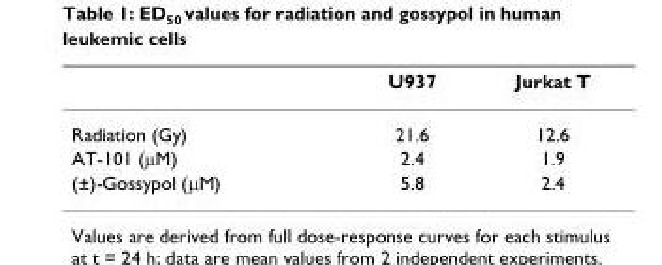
<table><thead><tr><td></td><td>U937</td><td>Jurkat T</td></tr></thead><tbody><tr><td>Radiation (Gy)</td><td>21.6</td><td>12.6</td></tr><tr><td>AT-101 (μM)</td><td>2.4</td><td>1.9</td></tr><tr><td>(±)-Gossypol (μM)</td><td>5.8</td><td>2.4</td></tr></tbody></table>